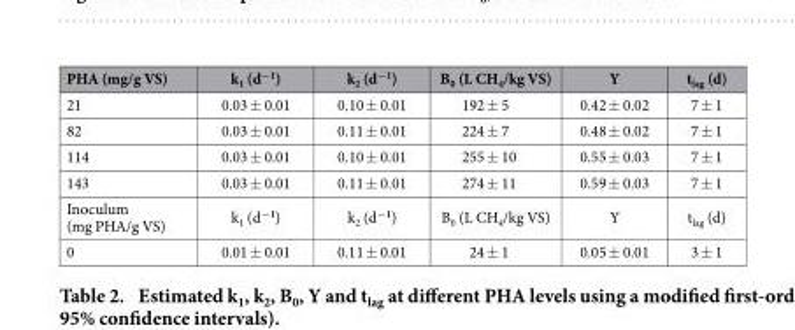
<table><thead><tr><td>PHA (mg/g VS)</td><td>k<sub>1</sub> (d<sup>−1</sup>)</td><td>k<sub>2</sub> (d<sup>−1</sup>)</td><td>B<sub>0</sub> (L CH<sub>4</sub>/kg VS)</td><td>Y</td><td>t<sub>lag</sub> (d)</td></tr></thead><tbody><tr><td>21</td><td>0.03 ± 0.01</td><td>0.10 ± 0.01</td><td>192 ± 5</td><td>0.42 ± 0.02</td><td>7 ± 1</td></tr><tr><td>82</td><td>0.03 ± 0.01</td><td>0.11 ± 0.01</td><td>224 ± 7</td><td>0.48 ± 0.02</td><td>7 ± 1</td></tr><tr><td>114</td><td>0.03 ± 0.01</td><td>0.10 ± 0.01</td><td>255 ± 10</td><td>0.55 ± 0.03</td><td>7 ± 1</td></tr><tr><td>143</td><td>0.03 ± 0.01</td><td>0.11 ± 0.01</td><td>274 ± 11</td><td>0.59 ± 0.03</td><td>7 ± 1</td></tr><tr><td>Inoculum (mg PHA/g VS)</td><td>k<sub>1</sub> (d<sup>−1</sup>)</td><td>k<sub>2</sub> (d<sup>−1</sup>)</td><td>B<sub>0</sub> (L CH<sub>4</sub>/kg VS)</td><td>Y</td><td>t<sub>lag</sub> (d)</td></tr><tr><td>0</td><td>0.01 ± 0.01</td><td>0.11 ± 0.01</td><td>24 ± 1</td><td>0.05 ± 0.01</td><td>3 ± 1</td></tr></tbody></table>